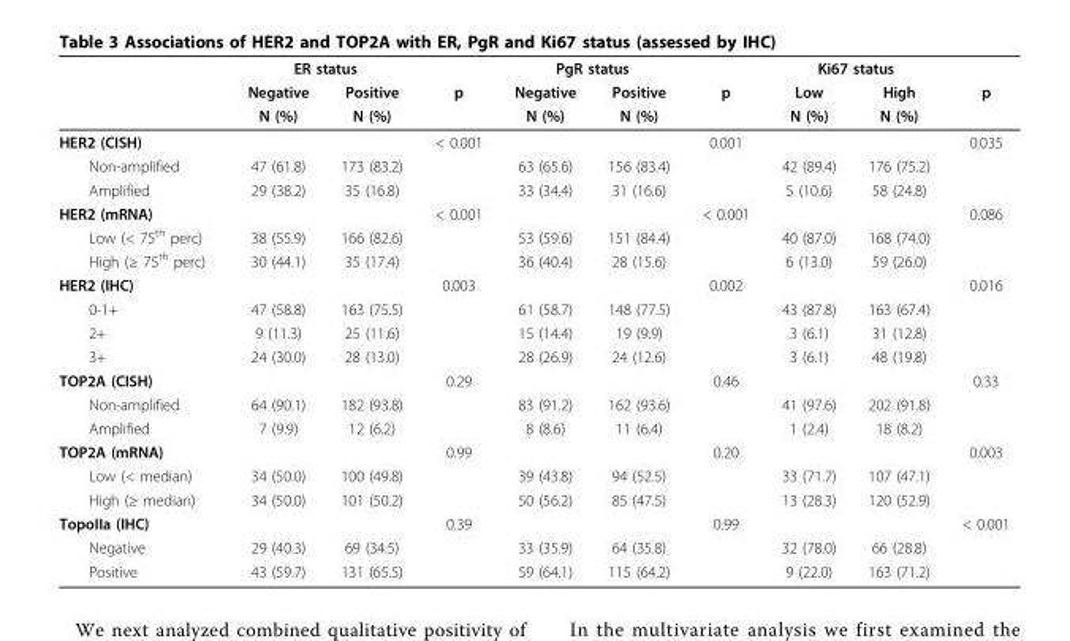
<table><thead><tr><td rowspan="3"></td><td colspan="2">ER status</td><td rowspan="3">p</td><td colspan="2">PgR status</td><td rowspan="3">p</td><td colspan="2">Ki67 status</td><td rowspan="3">p</td></tr><tr><td rowspan="2">Negative N (%)</td><td rowspan="2">Positive N (%)</td><td rowspan="2">Negative N (%)</td><td rowspan="2">Positive N (%)</td><td rowspan="2">Low N (%)</td><td rowspan="2">High N (%)</td></tr><tr></tr></thead><tbody><tr><td>HER2 (CISH)</td><td></td><td></td><td>&lt; 0.001</td><td></td><td></td><td>0.001</td><td></td><td></td><td>0.035</td></tr><tr><td>Non-amplified</td><td>47 (61.8)</td><td>173 (83.2)</td><td></td><td>63 (65.6)</td><td>156 (83.4)</td><td></td><td>42 (89.4)</td><td>176 (75.2)</td><td></td></tr><tr><td>Amplified</td><td>29 (38.2)</td><td>35 (16.8)</td><td></td><td>33 (34.4)</td><td>31 (16.6)</td><td></td><td>5 (10.6)</td><td>58 (24.8)</td><td></td></tr><tr><td>HER2 (mRNA)</td><td></td><td></td><td>&lt; 0.001</td><td></td><td></td><td>&lt; 0.001</td><td></td><td></td><td>0.086</td></tr><tr><td>Low (&lt; 75<sup>th</sup> perc)</td><td>38 (55.9)</td><td>166 (82.6)</td><td></td><td>53 (59.6)</td><td>151 (84.4)</td><td></td><td>40 (87.0)</td><td>168 (74.0)</td><td></td></tr><tr><td>High (≥ 75<sup>th</sup> perc)</td><td>30 (44.1)</td><td>35 (17.4)</td><td></td><td>36 (40.4)</td><td>28 (15.6)</td><td></td><td>6 (13.0)</td><td>59 (26.0)</td><td></td></tr><tr><td>HER2 (IHC)</td><td></td><td></td><td>0.003</td><td></td><td></td><td>0.002</td><td></td><td></td><td>0.016</td></tr><tr><td>0-1+</td><td>47 (58.8)</td><td>163 (75.5)</td><td></td><td>61 (58.7)</td><td>148 (77.5)</td><td></td><td>43 (87.8)</td><td>163 (67.4)</td><td></td></tr><tr><td>2+</td><td>9 (11.3)</td><td>25 (11.6)</td><td></td><td>15 (14.4)</td><td>19 (9.9)</td><td></td><td>3 (6.1)</td><td>31 (12.8)</td><td></td></tr><tr><td>3+</td><td>24 (30.0)</td><td>28 (13.0)</td><td></td><td>28 (26.9)</td><td>24 (12.6)</td><td></td><td>3 (6.1)</td><td>48 (19.8)</td><td></td></tr><tr><td>TOP2A (CISH)</td><td></td><td></td><td>0.29</td><td></td><td></td><td>0.46</td><td></td><td></td><td>0.33</td></tr><tr><td>Non-amplified</td><td>64 (90.1)</td><td>182 (93.8)</td><td></td><td>83 (91.2)</td><td>162 (93.6)</td><td></td><td>41 (97.6)</td><td>202 (91.8)</td><td></td></tr><tr><td>Amplified</td><td>7 (9.9)</td><td>12 (6.2)</td><td></td><td>8 (8.6)</td><td>11 (6.4)</td><td></td><td>1 (2.4)</td><td>18 (8.2)</td><td></td></tr><tr><td>TOP2A (mRNA)</td><td></td><td></td><td>0.99</td><td></td><td></td><td>0.20</td><td></td><td></td><td>0.003</td></tr><tr><td>Low (&lt; median)</td><td>34 (50.0)</td><td>100 (49.8)</td><td></td><td>39 (43.8)</td><td>94 (52.5)</td><td></td><td>33 (71.7)</td><td>107 (47.1)</td><td></td></tr><tr><td>High (≥ median)</td><td>34 (50.0)</td><td>101 (50.2)</td><td></td><td>50 (56.2)</td><td>85 (47.5)</td><td></td><td>13 (28.3)</td><td>120 (52.9)</td><td></td></tr><tr><td>TopoIIa (IHC)</td><td></td><td></td><td>0.39</td><td></td><td></td><td>0.99</td><td></td><td></td><td>&lt; 0.001</td></tr><tr><td>Negative</td><td>29 (40.3)</td><td>69 (34.5)</td><td></td><td>33 (35.9)</td><td>64 (35.8)</td><td></td><td>32 (78.0)</td><td>66 (28.8)</td><td></td></tr><tr><td>Positive</td><td>43 (59.7)</td><td>131 (65.5)</td><td></td><td>59 (64.1)</td><td>115 (64.2)</td><td></td><td>9 (22.0)</td><td>163 (71.2)</td><td></td></tr></tbody></table>